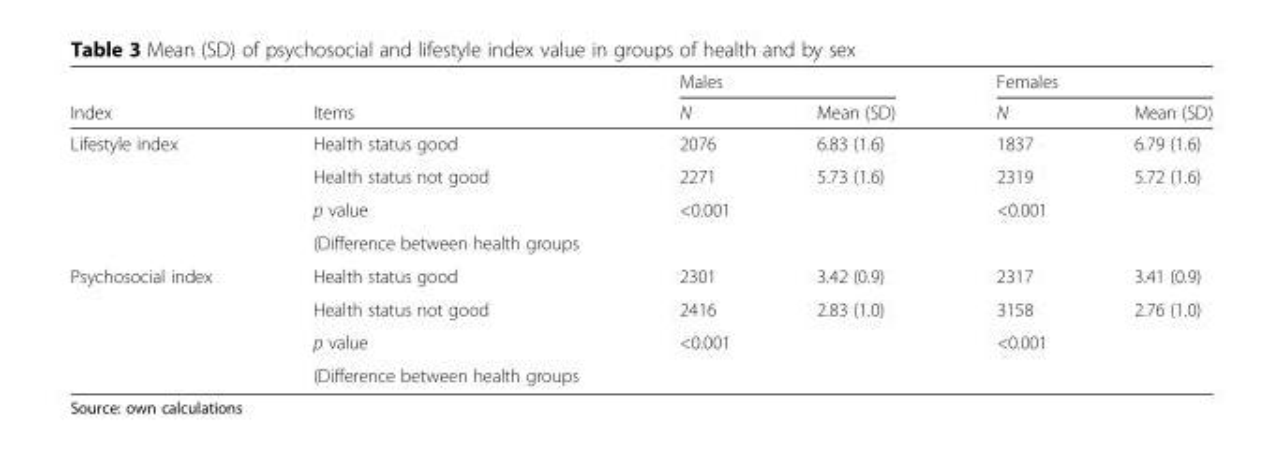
<table><thead><tr><td rowspan="2">Index</td><td rowspan="2">Items</td><td colspan="2">Males</td><td colspan="2">Females</td></tr><tr><td>N</td><td>Mean (SD)</td><td>N</td><td>Mean (SD)</td></tr></thead><tbody><tr><td rowspan="4">Lifestyle index</td><td>Health status good</td><td>2076</td><td>6.83 (1.6)</td><td>1837</td><td>6.79 (1.6)</td></tr><tr><td>Health status not good</td><td>2271</td><td>5.73 (1.6)</td><td>2319</td><td>5.72 (1.6)</td></tr><tr><td>p value</td><td rowspan="2" colspan="2">&lt;0.001</td><td rowspan="2" colspan="2">&lt;0.001</td></tr><tr><td>(Difference between health groups</td></tr><tr><td rowspan="4">Psychosocial index</td><td>Health status good</td><td>2301</td><td>3.42 (0.9)</td><td>2317</td><td>3.41 (0.9)</td></tr><tr><td>Health status not good</td><td>2416</td><td>2.83 (1.0)</td><td>3158</td><td>2.76 (1.0)</td></tr><tr><td>p value</td><td rowspan="2" colspan="2">&lt;0.001</td><td rowspan="2" colspan="2">&lt;0.001</td></tr><tr><td>(Difference between health groups</td></tr></tbody></table>